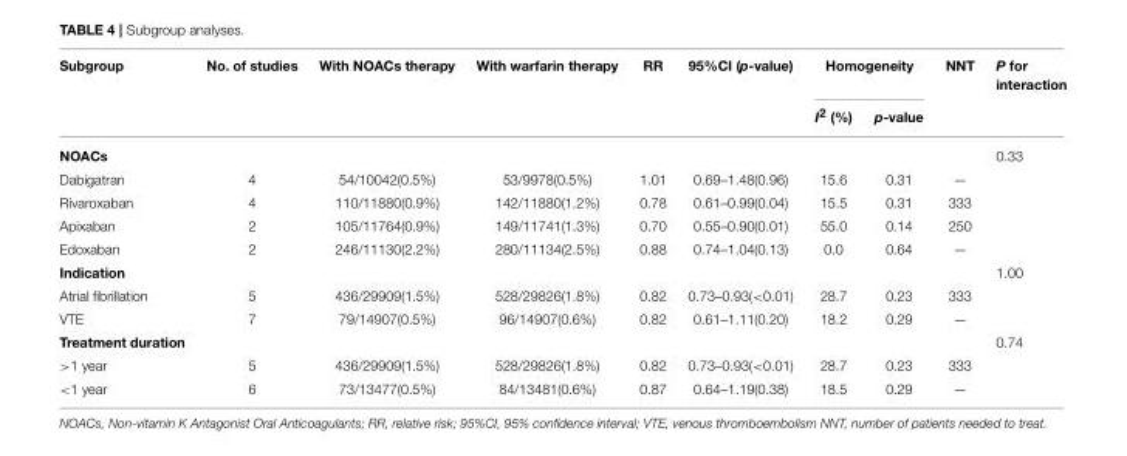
<table><thead><tr><td rowspan="2">Subgroup</td><td rowspan="2">No. of studies</td><td rowspan="2">With NOACs therapy</td><td rowspan="2">With warfarin therapy</td><td rowspan="2">RR</td><td rowspan="2">95%CI (p-value)</td><td colspan="2">Homogeneity</td><td rowspan="2">NNT</td><td rowspan="2">P for interaction</td></tr><tr><td>I<sup>2</sup> (%)</td><td>p-value</td></tr></thead><tbody><tr><td>NOACs</td><td></td><td></td><td></td><td></td><td></td><td></td><td></td><td></td><td>0.33</td></tr><tr><td>Dabigatran</td><td>4</td><td>54/10042(0.5%)</td><td>53/9978(0.5%)</td><td>1.01</td><td>0.69–1.48(0.96)</td><td>15.6</td><td>0.31</td><td>—</td><td></td></tr><tr><td>Rivaroxaban</td><td>4</td><td>110/11880(0.9%)</td><td>142/11880(1.2%)</td><td>0.78</td><td>0.61–0.99(0.04)</td><td>15.5</td><td>0.31</td><td>333</td><td></td></tr><tr><td>Apixaban</td><td>2</td><td>105/11764(0.9%)</td><td>149/11741(1.3%)</td><td>0.70</td><td>0.55–0.90(0.01)</td><td>55.0</td><td>0.14</td><td>250</td><td></td></tr><tr><td>Edoxaban</td><td>2</td><td>246/11130(2.2%)</td><td>280/11134(2.5%)</td><td>0.88</td><td>0.74–1.04(0.13)</td><td>0.0</td><td>0.64</td><td>—</td><td></td></tr><tr><td>Indication</td><td></td><td></td><td></td><td></td><td></td><td></td><td></td><td></td><td>1.00</td></tr><tr><td>Atrial fibrillation</td><td>5</td><td>436/29909(1.5%)</td><td>528/29826(1.8%)</td><td>0.82</td><td>0.73–0.93(&lt;0.01)</td><td>28.7</td><td>0.23</td><td>333</td><td></td></tr><tr><td>VTE</td><td>7</td><td>79/14907(0.5%)</td><td>96/14907(0.6%)</td><td>0.82</td><td>0.61–1.11(0.20)</td><td>18.2</td><td>0.29</td><td>—</td><td></td></tr><tr><td>Treatment duration</td><td></td><td></td><td></td><td></td><td></td><td></td><td></td><td></td><td>0.74</td></tr><tr><td>&gt;1 year</td><td>5</td><td>436/29909(1.5%)</td><td>528/29826(1.8%)</td><td>0.82</td><td>0.73–0.93(&lt;0.01)</td><td>28.7</td><td>0.23</td><td>333</td><td></td></tr><tr><td>&lt;1 year</td><td>6</td><td>73/13477(0.5%)</td><td>84/13481(0.6%)</td><td>0.87</td><td>0.64–1.19(0.38)</td><td>18.5</td><td>0.29</td><td>—</td><td></td></tr></tbody></table>